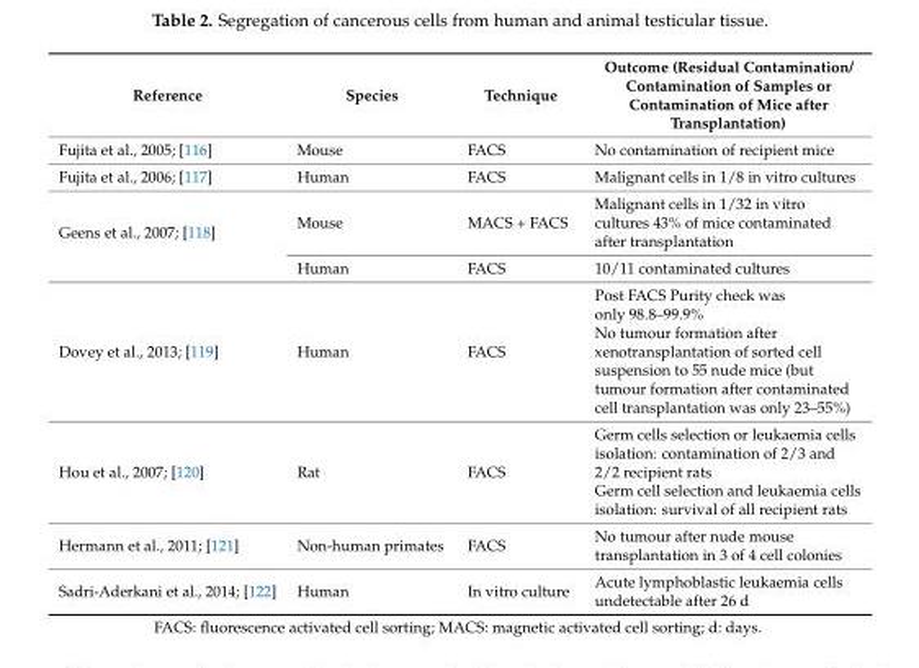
<table><thead><tr><td>Reference</td><td>Species</td><td>Technique</td><td>Outcome (Residual Contamination/ Contamination of Samples or Contamination of Mice after Transplantation)</td></tr></thead><tbody><tr><td>Fujita et al., 2005; [116]</td><td>Mouse</td><td>FACS</td><td>No contamination of recipient mice</td></tr><tr><td>Fujita et al., 2006; [117]</td><td>Human</td><td>FACS</td><td>Malignant cells in 1/8 in vitro cultures</td></tr><tr><td rowspan="2">Geens et al., 2007; [118]</td><td>Mouse</td><td>MACS + FACS</td><td>Malignant cells in 1/32 in vitro cultures 43% of mice contaminated after transplantation</td></tr><tr><td>Human</td><td>FACS</td><td>10/11 contaminated cultures</td></tr><tr><td>Dovey et al., 2013; [119]</td><td>Human</td><td>FACS</td><td>Post FACS Purity check was only 98.8–99.9% No tumour formation after xenotransplantation of sorted cell suspension to 55 nude mice (but tumour formation after contaminated cell transplantation was only 23–55%)</td></tr><tr><td>Hou et al., 2007; [120]</td><td>Rat</td><td>FACS</td><td>Germ cells selection or leukaemia cells isolation: contamination of 2/3 and 2/2 recipient rats Germ cell selection and leukaemia cells isolation: survival of all recipient rats</td></tr><tr><td>Hermann et al., 2011; [121]</td><td>Non-human primates</td><td>FACS</td><td>No tumour after nude mouse transplantation in 3 of 4 cell colonies</td></tr><tr><td>Sadri-Aderkani et al., 2014; [122]</td><td>Human</td><td>In vitro culture</td><td>Acute lymphoblastic leukaemia cells undetectable after 26 d</td></tr></tbody></table>